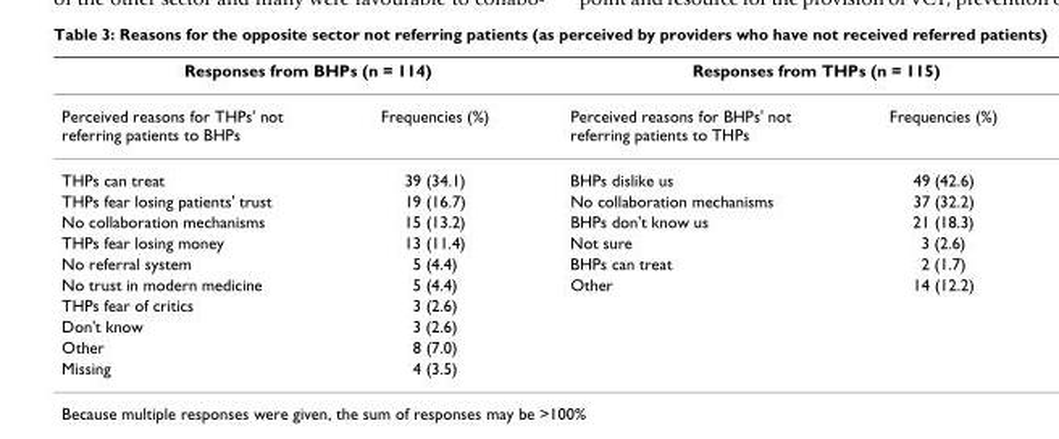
<table><thead><tr><td colspan="2">Responses from BHPs (n = 114)</td><td colspan="2">Responses from THPs (n = 115)</td></tr><tr><td>Perceived reasons for THPs&#x27; not referring patients to BHPs</td><td>Frequencies (%)</td><td>Perceived reasons for BHPs&#x27; not referring patients to THPs</td><td>Frequencies (%)</td></tr></thead><tbody><tr><td>THPs can treat</td><td>39 (34.1)</td><td>BHPs dislike us</td><td>49 (42.6)</td></tr><tr><td>THPs fear losing patients&#x27; trust</td><td>19 (16.7)</td><td>No collaboration mechanisms</td><td>37 (32.2)</td></tr><tr><td>No collaboration mechanisms</td><td>15 (13.2)</td><td>BHPs don&#x27;t know us</td><td>21 (18.3)</td></tr><tr><td>THPs fear losing money</td><td>13 (11.4)</td><td>Not sure</td><td>3 (2.6)</td></tr><tr><td>No referral system</td><td>5 (4.4)</td><td>BHPs can treat</td><td>2 (1.7)</td></tr><tr><td>No trust in modern medicine</td><td>5 (4.4)</td><td>Other</td><td>14 (12.2)</td></tr><tr><td>THPs fear of critics</td><td>3 (2.6)</td><td></td><td></td></tr><tr><td>Don&#x27;t know</td><td>3 (2.6)</td><td></td><td></td></tr><tr><td>Other</td><td>8 (7.0)</td><td></td><td></td></tr><tr><td>Missing</td><td>4 (3.5)</td><td></td><td></td></tr></tbody></table>